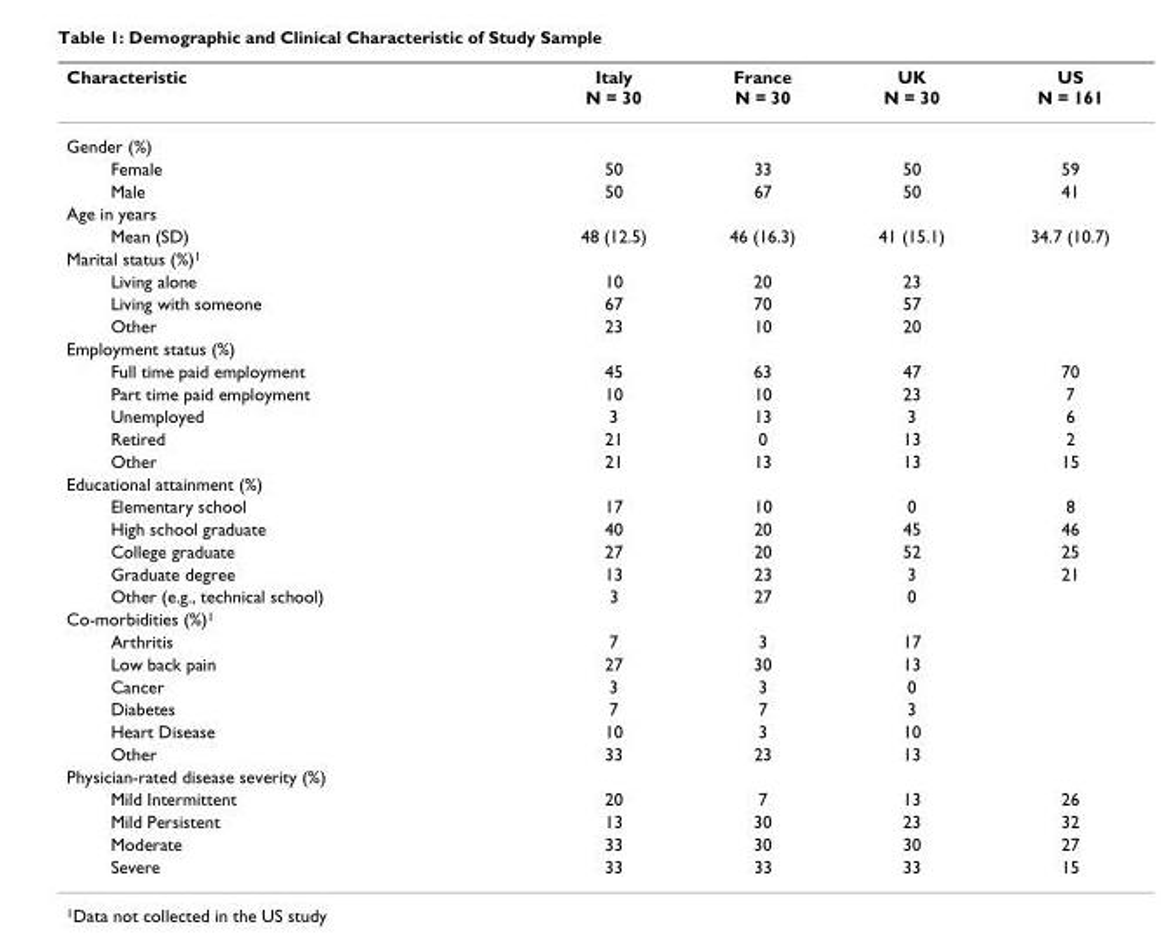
<table><thead><tr><td>Characteristic</td><td>Italy N = 30</td><td>France N = 30</td><td>UK N = 30</td><td>US N = 161</td></tr></thead><tbody><tr><td colspan="5">Gender (%)</td></tr><tr><td>Female</td><td>50</td><td>33</td><td>50</td><td>59</td></tr><tr><td>Male</td><td>50</td><td>67</td><td>50</td><td>41</td></tr><tr><td colspan="5">Age in years</td></tr><tr><td>Mean (SD)</td><td>48 (12.5)</td><td>46 (16.3)</td><td>41 (15.1)</td><td>34.7 (10.7)</td></tr><tr><td colspan="5">Marital status (%)<sup>1</sup></td></tr><tr><td>Living alone</td><td>10</td><td>20</td><td>23</td><td></td></tr><tr><td>Living with someone</td><td>67</td><td>70</td><td>57</td><td></td></tr><tr><td>Other</td><td>23</td><td>10</td><td>20</td><td></td></tr><tr><td colspan="5">Employment status (%)</td></tr><tr><td>Full time paid employment</td><td>45</td><td>63</td><td>47</td><td>70</td></tr><tr><td>Part time paid employment</td><td>10</td><td>10</td><td>23</td><td>7</td></tr><tr><td>Unemployed</td><td>3</td><td>13</td><td>3</td><td>6</td></tr><tr><td>Retired</td><td>21</td><td>0</td><td>13</td><td>2</td></tr><tr><td>Other</td><td>21</td><td>13</td><td>13</td><td>15</td></tr><tr><td colspan="5">Educational attainment (%)</td></tr><tr><td>Elementary school</td><td>17</td><td>10</td><td>0</td><td>8</td></tr><tr><td>High school graduate</td><td>40</td><td>20</td><td>45</td><td>46</td></tr><tr><td>College graduate</td><td>27</td><td>20</td><td>52</td><td>25</td></tr><tr><td>Graduate degree</td><td>13</td><td>23</td><td>3</td><td>21</td></tr><tr><td>Other (e.g., technical school)</td><td>3</td><td>27</td><td>0</td><td></td></tr><tr><td colspan="5">Co-morbidities (%)<sup>1</sup></td></tr><tr><td>Arthritis</td><td>7</td><td>3</td><td>17</td><td></td></tr><tr><td>Low back pain</td><td>27</td><td>30</td><td>13</td><td></td></tr><tr><td>Cancer</td><td>3</td><td>3</td><td>0</td><td></td></tr><tr><td>Diabetes</td><td>7</td><td>7</td><td>3</td><td></td></tr><tr><td>Heart Disease</td><td>10</td><td>3</td><td>10</td><td></td></tr><tr><td>Other</td><td>33</td><td>23</td><td>13</td><td></td></tr><tr><td colspan="5">Physician-rated disease severity (%)</td></tr><tr><td>Mild Intermittent</td><td>20</td><td>7</td><td>13</td><td>26</td></tr><tr><td>Mild Persistent</td><td>13</td><td>30</td><td>23</td><td>32</td></tr><tr><td>Moderate</td><td>33</td><td>30</td><td>30</td><td>27</td></tr><tr><td>Severe</td><td>33</td><td>33</td><td>33</td><td>15</td></tr></tbody></table>